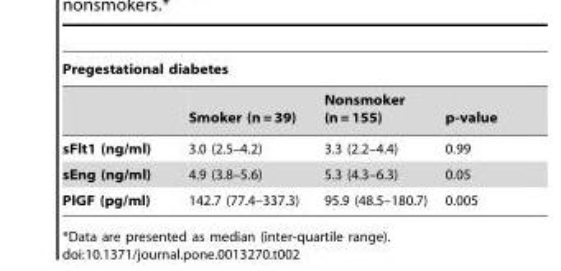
<table><thead><tr><td colspan="4">Pregestational diabetes</td></tr><tr><td></td><td>Smoker (n = 39)</td><td>Nonsmoker (n = 155)</td><td>p-value</td></tr></thead><tbody><tr><td>sFlt1 (ng/ml)</td><td>3.0 (2.5–4.2)</td><td>3.3 (2.2–4.4)</td><td>0.99</td></tr><tr><td>sEng (ng/ml)</td><td>4.9 (3.8–5.6)</td><td>5.3 (4.3–6.3)</td><td>0.05</td></tr><tr><td>PlGF (pg/ml)</td><td>142.7 (77.4–337.3)</td><td>95.9 (48.5–180.7)</td><td>0.005</td></tr></tbody></table>